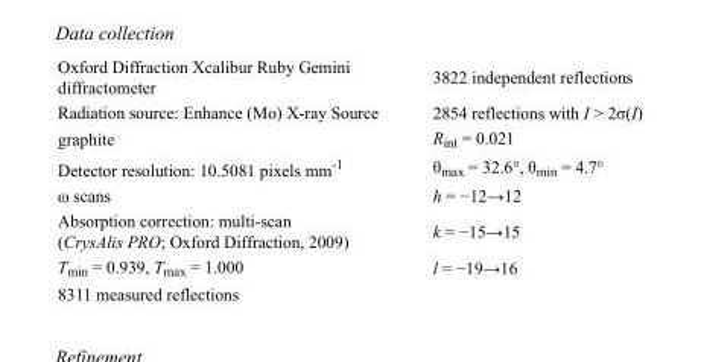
<table><tbody><tr><td>Oxford Diffraction Xcalibur Ruby Gemini diffractometer</td><td>3822 independent reflections</td></tr><tr><td>Radiation source: Enhance (Mo) X-ray Source</td><td>2854 reflections with I &gt; 2σ(I)</td></tr><tr><td>graphite</td><td>R<sub>int</sub> = 0.021</td></tr><tr><td>Detector resolution: 10.5081 pixels mm<sup>-1</sup></td><td>θ<sub>max</sub> = 32.6°, θ<sub>min</sub> = 4.7°</td></tr><tr><td>ω scans</td><td>h = −12→12</td></tr><tr><td>Absorption correction: multi-scan (CrysAlis PRO; Oxford Diffraction, 2009)</td><td>k = −15→15</td></tr><tr><td>T<sub>min</sub> = 0.939, T<sub>max</sub> = 1.000</td><td>l = −19→16</td></tr><tr><td>8311 measured reflections</td><td></td></tr></tbody></table>